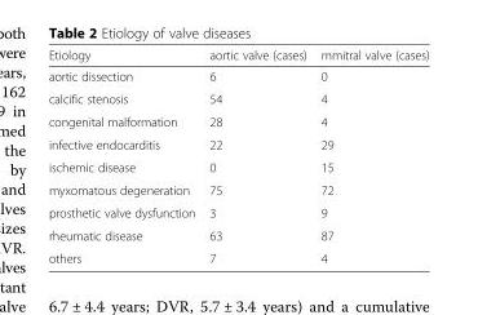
<table><thead><tr><td>Etiology</td><td>aortic valve (cases)</td><td>mmitral valve (cases)</td></tr></thead><tbody><tr><td>aortic dissection</td><td>6</td><td>0</td></tr><tr><td>calcific stenosis</td><td>54</td><td>4</td></tr><tr><td>congenital malformation</td><td>28</td><td>4</td></tr><tr><td>infective endocarditis</td><td>22</td><td>29</td></tr><tr><td>ischemic disease</td><td>0</td><td>15</td></tr><tr><td>myxomatous degeneration</td><td>75</td><td>72</td></tr><tr><td>prosthetic valve dysfunction</td><td>3</td><td>9</td></tr><tr><td>rheumatic disease</td><td>63</td><td>87</td></tr><tr><td>others</td><td>7</td><td>4</td></tr></tbody></table>